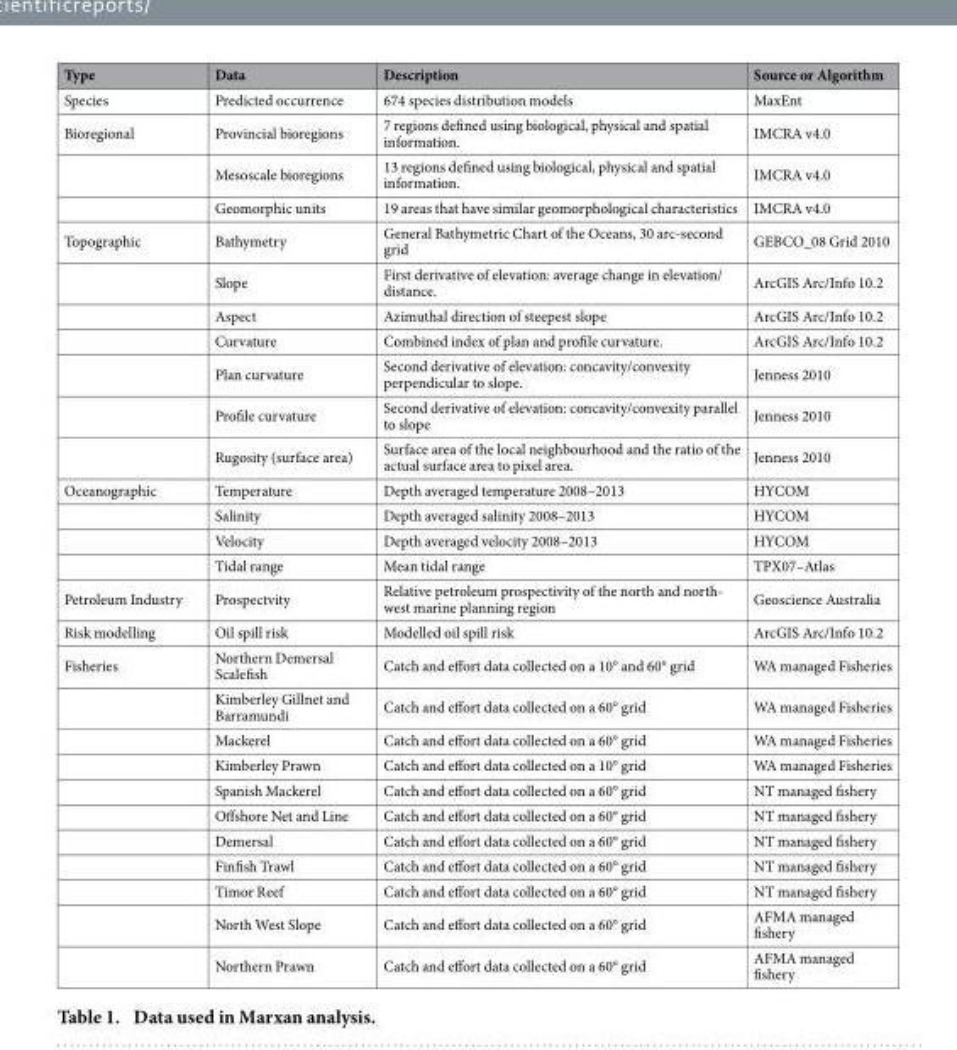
<table><thead><tr><td>Type</td><td>Data</td><td>Description</td><td>Source or Algorithm</td></tr></thead><tbody><tr><td>Species</td><td>Predicted occurrence</td><td>674 species distribution models</td><td>MaxEnt</td></tr><tr><td rowspan="3">Bioregional</td><td>Provincial bioregions</td><td>7 regions defined using biological, physical and spatial information.</td><td>IMCRA v4.0</td></tr><tr><td>Mesoscale bioregions</td><td>13 regions defined using biological, physical and spatial information.</td><td>IMCRA v4.0</td></tr><tr><td>Geomorphic units</td><td>19 areas that have similar geomorphological characteristics</td><td>IMCRA v4.0</td></tr><tr><td rowspan="7">Topographic</td><td>Bathymetry</td><td>General Bathymetric Chart of the Oceans, 30 arc-second grid</td><td>GEBCO_08 Grid 2010</td></tr><tr><td>Slope</td><td>First derivative of elevation: average change in elevation/ distance.</td><td>ArcGIS Arc/Info 10.2</td></tr><tr><td>Aspect</td><td>Azimuthal direction of steepest slope</td><td>ArcGIS Arc/Info 10.2</td></tr><tr><td>Curvature</td><td>Combined index of plan and profile curvature.</td><td>ArcGIS Arc/Info 10.2</td></tr><tr><td>Plan curvature</td><td>Second derivative of elevation: concavity/convexity perpendicular to slope.</td><td>Jenness 2010</td></tr><tr><td>Profile curvature</td><td>Second derivative of elevation: concavity/convexity parallel to slope</td><td>Jenness 2010</td></tr><tr><td>Rugosity (surface area)</td><td>Surface area of the local neighbourhood and the ratio of the actual surface area to pixel area.</td><td>Jenness 2010</td></tr><tr><td rowspan="4">Oceanographic</td><td>Temperature</td><td>Depth averaged temperature 2008–2013</td><td>HYCOM</td></tr><tr><td>Salinity</td><td>Depth averaged salinity 2008–2013</td><td>HYCOM</td></tr><tr><td>Velocity</td><td>Depth averaged velocity 2008–2013</td><td>HYCOM</td></tr><tr><td>Tidal range</td><td>Mean tidal range</td><td>TPX07–Atlas</td></tr><tr><td>Petroleum Industry</td><td>Prospectvity</td><td>Relative petroleum prospectivity of the north and north- west marine planning region</td><td>Geoscience Australia</td></tr><tr><td>Risk modelling</td><td>Oil spill risk</td><td>Modelled oil spill risk</td><td>ArcGIS Arc/Info 10.2</td></tr><tr><td rowspan="11">Fisheries</td><td>Northern Demersal Scalefish</td><td>Catch and effort data collected on a 10° and 60° grid</td><td>WA managed Fisheries</td></tr><tr><td>Kimberley Gillnet and Barramundi</td><td>Catch and effort data collected on a 60° grid</td><td>WA managed Fisheries</td></tr><tr><td>Mackerel</td><td>Catch and effort data collected on a 60° grid</td><td>WA managed Fisheries</td></tr><tr><td>Kimberley Prawn</td><td>Catch and effort data collected on a 10° grid</td><td>WA managed Fisheries</td></tr><tr><td>Spanish Mackerel</td><td>Catch and effort data collected on a 60° grid</td><td>NT managed fishery</td></tr><tr><td>Offshore Net and Line</td><td>Catch and effort data collected on a 60° grid</td><td>NT managed fishery</td></tr><tr><td>Demersal</td><td>Catch and effort data collected on a 60° grid</td><td>NT managed fishery</td></tr><tr><td>Finfish Trawl</td><td>Catch and effort data collected on a 60° grid</td><td>NT managed fishery</td></tr><tr><td>Timor Reef</td><td>Catch and effort data collected on a 60° grid</td><td>NT managed fishery</td></tr><tr><td>North West Slope</td><td>Catch and effort data collected on a 60° grid</td><td>AFMA managed fishery</td></tr><tr><td>Northern Prawn</td><td>Catch and effort data collected on a 60° grid</td><td>AFMA managed fishery</td></tr></tbody></table>